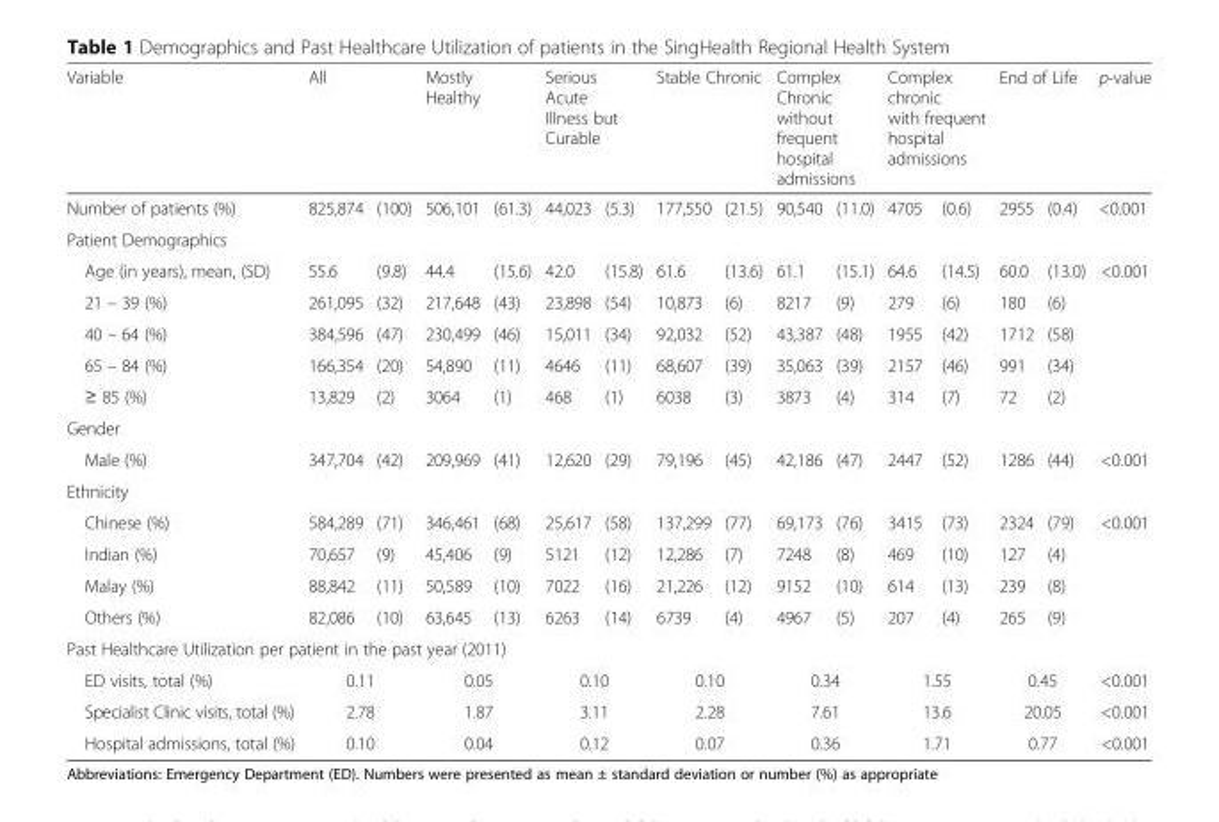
<table><thead><tr><td rowspan="2">Variable Number of patients (%)</td><td colspan="2">All</td><td colspan="2">Mostly Healthy</td><td colspan="2">Serious Acute Illness but Curable</td><td colspan="2">Stable Chronic</td><td colspan="2">Complex Chronic without frequent hospital admissions</td><td colspan="2">Complex chronic with frequent hospital admissions</td><td colspan="2">End of Life</td><td rowspan="2">p-value &lt;0.001</td></tr><tr><td>825,874</td><td>(100)</td><td>506,101</td><td>(61.3)</td><td>44,023</td><td>(5.3)</td><td>177,550</td><td>(21.5)</td><td>90,540</td><td>(11.0)</td><td>4705</td><td>(0.6)</td><td>2955</td><td>(0.4)</td></tr></thead><tbody><tr><td colspan="16">Patient Demographics</td></tr><tr><td>Age (in years), mean, (SD)</td><td>55.6</td><td>(9.8)</td><td>44.4</td><td>(15.6)</td><td>42.0</td><td>(15.8)</td><td>61.6</td><td>(13.6)</td><td>61.1</td><td>(15.1)</td><td>64.6</td><td>(14.5)</td><td>60.0</td><td>(13.0)</td><td>&lt;0.001</td></tr><tr><td>21 – 39 (%)</td><td>261,095</td><td>(32)</td><td>217,648</td><td>(43)</td><td>23,898</td><td>(54)</td><td>10,873</td><td>(6)</td><td>8217</td><td>(9)</td><td>279</td><td>(6)</td><td>180</td><td>(6)</td><td></td></tr><tr><td>40 – 64 (%)</td><td>384,596</td><td>(47)</td><td>230,499</td><td>(46)</td><td>15,011</td><td>(34)</td><td>92,032</td><td>(52)</td><td>43,387</td><td>(48)</td><td>1955</td><td>(42)</td><td>1712</td><td>(58)</td><td></td></tr><tr><td>65 – 84 (%)</td><td>166,354</td><td>(20)</td><td>54,890</td><td>(11)</td><td>4646</td><td>(11)</td><td>68,607</td><td>(39)</td><td>35,063</td><td>(39)</td><td>2157</td><td>(46)</td><td>991</td><td>(34)</td><td></td></tr><tr><td>≥ 85 (%)</td><td>13,829</td><td>(2)</td><td>3064</td><td>(1)</td><td>468</td><td>(1)</td><td>6038</td><td>(3)</td><td>3873</td><td>(4)</td><td>314</td><td>(7)</td><td>72</td><td>(2)</td><td></td></tr><tr><td colspan="16">Gender</td></tr><tr><td>Male (%)</td><td>347,704</td><td>(42)</td><td>209,969</td><td>(41)</td><td>12,620</td><td>(29)</td><td>79,196</td><td>(45)</td><td>42,186</td><td>(47)</td><td>2447</td><td>(52)</td><td>1286</td><td>(44)</td><td>&lt;0.001</td></tr><tr><td colspan="16">Ethnicity</td></tr><tr><td>Chinese (%)</td><td>584,289</td><td>(71)</td><td>346,461</td><td>(68)</td><td>25,617</td><td>(58)</td><td>137,299</td><td>(77)</td><td>69,173</td><td>(76)</td><td>3415</td><td>(73)</td><td>2324</td><td>(79)</td><td rowspan="4">&lt;0.001</td></tr><tr><td>Indian (%)</td><td>70,657</td><td>(9)</td><td>45,406</td><td>(9)</td><td>5121</td><td>(12)</td><td>12,286</td><td>(7)</td><td>7248</td><td>(8)</td><td>469</td><td>(10)</td><td>127</td><td>(4)</td></tr><tr><td>Malay (%)</td><td>88,842</td><td>(11)</td><td>50,589</td><td>(10)</td><td>7022</td><td>(16)</td><td>21,226</td><td>(12)</td><td>9152</td><td>(10)</td><td>614</td><td>(13)</td><td>239</td><td>(8)</td></tr><tr><td>Others (%)</td><td>82,086</td><td>(10)</td><td>63,645</td><td>(13)</td><td>6263</td><td>(14)</td><td>6739</td><td>(4)</td><td>4967</td><td>(5)</td><td>207</td><td>(4)</td><td>265</td><td>(9)</td></tr><tr><td colspan="16">Past Healthcare Utilization per patient in the past year (2011)</td></tr><tr><td>ED visits, total (%)</td><td colspan="2">0.11</td><td colspan="2">0.05</td><td colspan="2">0.10</td><td colspan="2">0.10</td><td colspan="2">0.34</td><td colspan="2">1.55</td><td colspan="2">0.45</td><td>&lt;0.001</td></tr><tr><td>Specialist Clinic visits, total (%)</td><td colspan="2">2.78</td><td colspan="2">1.87</td><td colspan="2">3.11</td><td colspan="2">2.28</td><td colspan="2">7.61</td><td colspan="2">13.6</td><td colspan="2">20.05</td><td>&lt;0.001</td></tr><tr><td>Hospital admissions, total (%)</td><td colspan="2">0.10</td><td colspan="2">0.04</td><td colspan="2">0.12</td><td colspan="2">0.07</td><td colspan="2">0.36</td><td colspan="2">1.71</td><td colspan="2">0.77</td><td>&lt;0.001</td></tr></tbody></table>